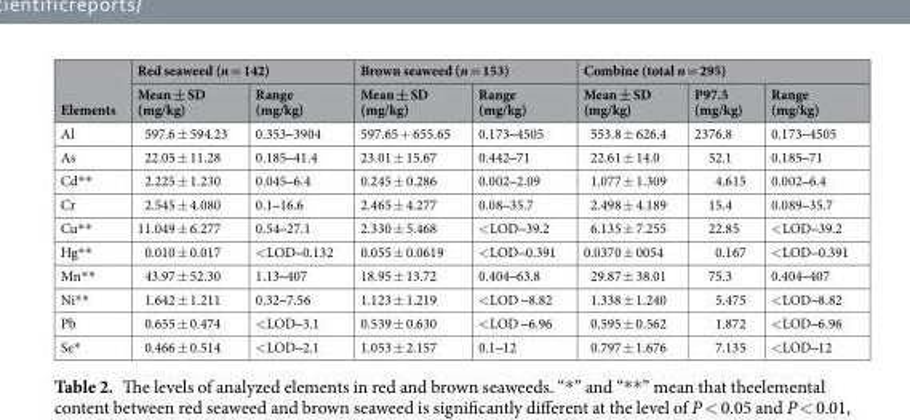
<table><thead><tr><td rowspan="2">Elements</td><td colspan="2">Red seaweed (n = 142)</td><td colspan="2">Brown seaweed (n = 153)</td><td colspan="3">Combine (total n = 295)</td></tr><tr><td>Mean ± SD (mg/kg)</td><td>Range (mg/kg)</td><td>Mean ± SD (mg/kg)</td><td>Range (mg/kg)</td><td>Mean ± SD (mg/kg)</td><td>P97.5 (mg/kg)</td><td>Range (mg/kg)</td></tr></thead><tbody><tr><td>Al</td><td>597.6 ± 594.23</td><td>0.353‒3904</td><td>597.65 + 655.65</td><td>0.173‒4505</td><td>553.8 ± 626.4</td><td>2376.8</td><td>0.173‒4505</td></tr><tr><td>As</td><td>22.05 ± 11.28</td><td>0.185‒41.4</td><td>23.01 ± 15.67</td><td>0.442‒71</td><td>22.61 ± 14.0</td><td>52.1</td><td>0.185‒71</td></tr><tr><td>Cd**</td><td>2.225 ± 1.230</td><td>0.045‒6.4</td><td>0.245 ± 0.286</td><td>0.002‒2.09</td><td>1.077 ± 1.309</td><td>4.615</td><td>0.002‒6.4</td></tr><tr><td>Cr</td><td>2.545 ± 4.080</td><td>0.1‒16.6</td><td>2.465 ± 4.277</td><td>0.08‒35.7</td><td>2.498 ± 4.189</td><td>15.4</td><td>0.089‒35.7</td></tr><tr><td>Cu**</td><td>11.049 ± 6.277</td><td>0.54‒27.1</td><td>2.330 ± 5.468</td><td>&lt;LOD‒39.2</td><td>6.135 ± 7.255</td><td>22.85</td><td>&lt;LOD‒39.2</td></tr><tr><td>Hg**</td><td>0.010 ± 0.017</td><td>&lt;LOD‒0.132</td><td>0.055 ± 0.0619</td><td>&lt;LOD‒0.391</td><td>0.0370 ± 0054</td><td>0.167</td><td>&lt;LOD‒0.391</td></tr><tr><td>Mn**</td><td>43.97 ± 52.30</td><td>1.13‒407</td><td>18.95 ± 13.72</td><td>0.404‒63.8</td><td>29.87 ± 38.01</td><td>75.3</td><td>0.404‒407</td></tr><tr><td>Ni**</td><td>1.642 ± 1.211</td><td>0.32‒7.56</td><td>1.123 ± 1.219</td><td>&lt;LOD ‒8.82</td><td>1.338 ± 1.240</td><td>5.475</td><td>&lt;LOD‒8.82</td></tr><tr><td>Pb</td><td>0.655 ± 0.474</td><td>&lt;LOD‒3.1</td><td>0.539 ± 0.630</td><td>&lt;LOD ‒6.96</td><td>0.595 ± 0.562</td><td>1.872</td><td>&lt;LOD‒6.96</td></tr><tr><td>Se*</td><td>0.466 ± 0.514</td><td>&lt;LOD‒2.1</td><td>1.053 ± 2.157</td><td>0.1‒12</td><td>0.797 ± 1.676</td><td>7.135</td><td>&lt;LOD‒12</td></tr></tbody></table>